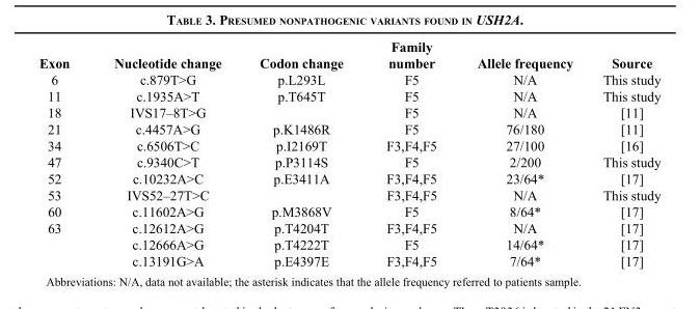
<table><thead><tr><td>Exon</td><td>Nucleotide change</td><td>Codon change</td><td>Family number</td><td>Allele frequency</td><td>Source</td></tr></thead><tbody><tr><td>6</td><td>c.879T&gt;G</td><td>p.L293L</td><td>F5</td><td>N/A</td><td>This study</td></tr><tr><td>11</td><td>c.1935A&gt;T</td><td>p.T645T</td><td>F5</td><td>N/A</td><td>This study</td></tr><tr><td>18</td><td>IVS17–8T&gt;G</td><td></td><td>F5</td><td>N/A</td><td>[11]</td></tr><tr><td>21</td><td>c.4457A&gt;G</td><td>p.K1486R</td><td>F5</td><td>76/180</td><td>[11]</td></tr><tr><td>34</td><td>c.6506T&gt;C</td><td>p.I2169T</td><td>F3,F4,F5</td><td>27/100</td><td>[16]</td></tr><tr><td>47</td><td>c.9340C&gt;T</td><td>p.P3114S</td><td>F5</td><td>2/200</td><td>This study</td></tr><tr><td>52</td><td>c.10232A&gt;C</td><td>p.E3411A</td><td>F3,F4,F5</td><td>23/64*</td><td>[17]</td></tr><tr><td>53</td><td>IVS52–27T&gt;C</td><td></td><td>F3,F4,F5</td><td>N/A</td><td>This study</td></tr><tr><td>60</td><td>c.11602A&gt;G</td><td>p.M3868V</td><td>F5</td><td>8/64*</td><td>[17]</td></tr><tr><td rowspan="3">63</td><td>c.12612A&gt;G</td><td>p.T4204T</td><td>F3,F4,F5</td><td>N/A</td><td>[17]</td></tr><tr><td>c.12666A&gt;G</td><td>p.T4222T</td><td>F5</td><td>14/64*</td><td>[17]</td></tr><tr><td>c.13191G&gt;A</td><td>p.E4397E</td><td>F3,F4,F5</td><td>7/64*</td><td>[17]</td></tr></tbody></table>